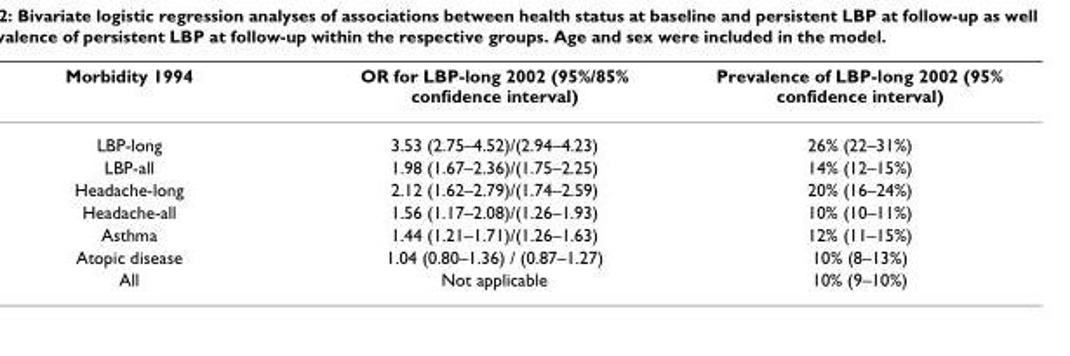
<table><thead><tr><td>Morbidity 1994</td><td>OR for LBP-long 2002 (95%/85% confidence interval)</td><td>Prevalence of LBP-long 2002 (95% confidence interval)</td></tr></thead><tbody><tr><td>LBP-long</td><td>3.53 (2.75–4.52)/(2.94–4.23)</td><td>26% (22–31%)</td></tr><tr><td>LBP-all</td><td>1.98 (1.67–2.36)/(1.75–2.25)</td><td>14% (12–15%)</td></tr><tr><td>Headache-long</td><td>2.12 (1.62–2.79)/(1.74–2.59)</td><td>20% (16–24%)</td></tr><tr><td>Headache-all</td><td>1.56 (1.17–2.08)/(1.26–1.93)</td><td>10% (10–11%)</td></tr><tr><td>Asthma</td><td>1.44 (1.21–1.71)/(1.26–1.63)</td><td>12% (11–15%)</td></tr><tr><td>Atopic disease</td><td>1.04 (0.80–1.36) / (0.87–1.27)</td><td>10% (8–13%)</td></tr><tr><td>All</td><td>Not applicable</td><td>10% (9–10%)</td></tr></tbody></table>